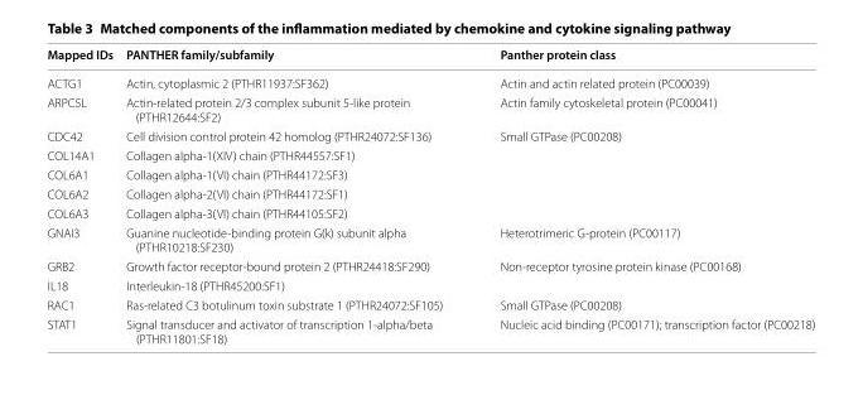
<table><thead><tr><td>Mapped IDs</td><td>PANTHER family/subfamily</td><td>Panther protein class</td></tr></thead><tbody><tr><td>ACTG1</td><td>Actin, cytoplasmic 2 (PTHR11937:SF362)</td><td>Actin and actin related protein (PC00039)</td></tr><tr><td>ARPC5L</td><td>Actin-related protein 2/3 complex subunit 5-like protein (PTHR12644:SF2)</td><td>Actin family cytoskeletal protein (PC00041)</td></tr><tr><td>CDC42</td><td>Cell division control protein 42 homolog (PTHR24072:SF136)</td><td>Small GTPase (PC00208)</td></tr><tr><td>COL14A1</td><td>Collagen alpha-1(XIV) chain (PTHR44557:SF1)</td><td></td></tr><tr><td>COL6A1</td><td>Collagen alpha-1(VI) chain (PTHR44172:SF3)</td><td></td></tr><tr><td>COL6A2</td><td>Collagen alpha-2(VI) chain (PTHR44172:SF1)</td><td></td></tr><tr><td>COL6A3</td><td>Collagen alpha-3(VI) chain (PTHR44105:SF2)</td><td></td></tr><tr><td>GNAI3</td><td>Guanine nucleotide-binding protein G(k) subunit alpha (PTHR10218:SF230)</td><td>Heterotrimeric G-protein (PC00117)</td></tr><tr><td>GRB2</td><td>Growth factor receptor-bound protein 2 (PTHR24418:SF290)</td><td>Non-receptor tyrosine protein kinase (PC00168)</td></tr><tr><td>IL18</td><td>Interleukin-18 (PTHR45200:SF1)</td><td></td></tr><tr><td>RAC1</td><td>Ras-related C3 botulinum toxin substrate 1 (PTHR24072:SF105)</td><td>Small GTPase (PC00208)</td></tr><tr><td>STAT1</td><td>Signal transducer and activator of transcription 1-alpha/beta (PTHR11801:SF18)</td><td>Nucleic acid binding (PC00171); transcription factor (PC00218)</td></tr></tbody></table>